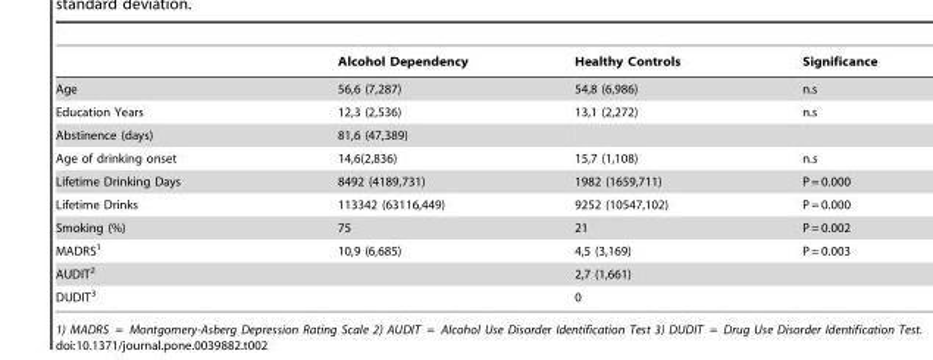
<table><thead><tr><td></td><td>Alcohol Dependency</td><td>Healthy Controls</td><td>Significance</td></tr></thead><tbody><tr><td>Age</td><td>56,6 (7,287)</td><td>54,8 (6,986)</td><td>n.s</td></tr><tr><td>Education Years</td><td>12,3 (2,536)</td><td>13,1 (2,272)</td><td>n.s</td></tr><tr><td>Abstinence (days)</td><td>81,6 (47,389)</td><td></td><td></td></tr><tr><td>Age of drinking onset</td><td>14,6(2,836)</td><td>15,7 (1,108)</td><td>n.s</td></tr><tr><td>Lifetime Drinking Days</td><td>8492 (4189,731)</td><td>1982 (1659,711)</td><td>P = 0.000</td></tr><tr><td>Lifetime Drinks</td><td>113342 (63116,449)</td><td>9252 (10547,102)</td><td>P = 0.000</td></tr><tr><td>Smoking (%)</td><td>75</td><td>21</td><td>P = 0.002</td></tr><tr><td>MADRS<sup>1</sup></td><td>10,9 (6,685)</td><td>4,5 (3,169)</td><td>P = 0.003</td></tr><tr><td>AUDIT<sup>2</sup></td><td></td><td>2,7 (1,661)</td><td></td></tr><tr><td>DUDIT<sup>3</sup></td><td></td><td>0</td><td></td></tr></tbody></table>